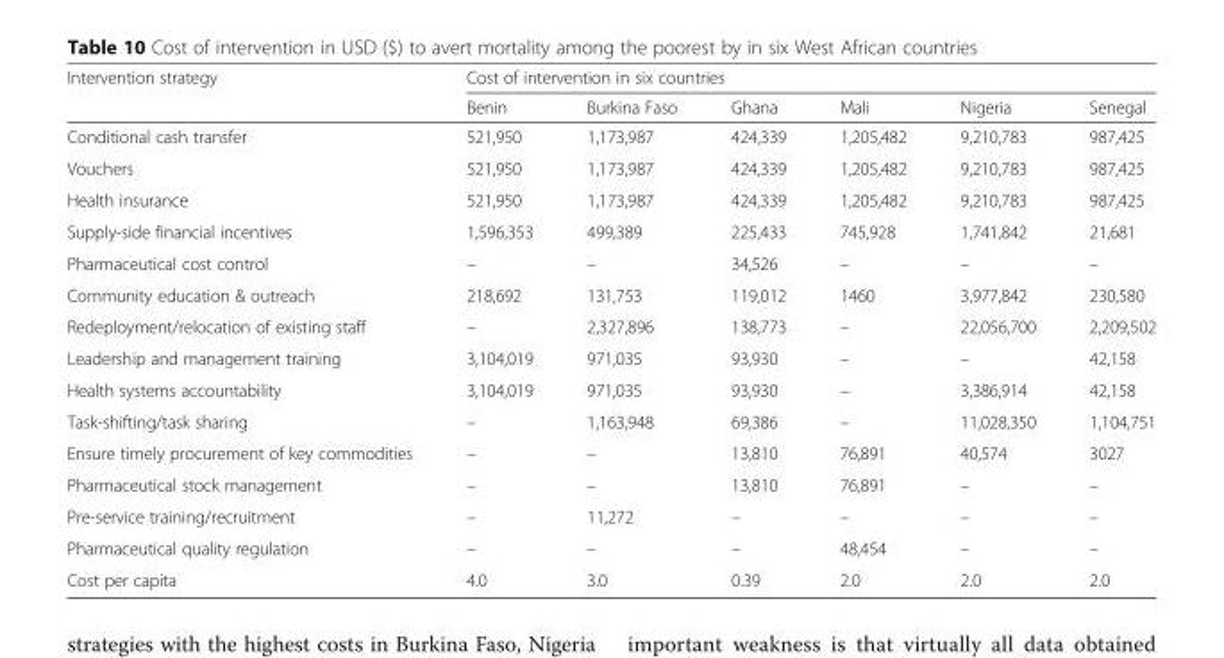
<table><thead><tr><td rowspan="2">Intervention strategy</td><td colspan="6">Cost of intervention in six countries</td></tr><tr><td>Benin</td><td>Burkina Faso</td><td>Ghana</td><td>Mali</td><td>Nigeria</td><td>Senegal</td></tr></thead><tbody><tr><td>Conditional cash transfer</td><td>521,950</td><td>1,173,987</td><td>424,339</td><td>1,205,482</td><td>9,210,783</td><td>987,425</td></tr><tr><td>Vouchers</td><td>521,950</td><td>1,173,987</td><td>424,339</td><td>1,205,482</td><td>9,210,783</td><td>987,425</td></tr><tr><td>Health insurance</td><td>521,950</td><td>1,173,987</td><td>424,339</td><td>1,205,482</td><td>9,210,783</td><td>987,425</td></tr><tr><td>Supply-side financial incentives</td><td>1,596,353</td><td>499,389</td><td>225,433</td><td>745,928</td><td>1,741,842</td><td>21,681</td></tr><tr><td>Pharmaceutical cost control</td><td>–</td><td>–</td><td>34,526</td><td>–</td><td>–</td><td>–</td></tr><tr><td>Community education &amp; outreach</td><td>218,692</td><td>131,753</td><td>119,012</td><td>1460</td><td>3,977,842</td><td>230,580</td></tr><tr><td>Redeployment/relocation of existing staff</td><td>–</td><td>2,327,896</td><td>138,773</td><td>–</td><td>22,056,700</td><td>2,209,502</td></tr><tr><td>Leadership and management training</td><td>3,104,019</td><td>971,035</td><td>93,930</td><td>–</td><td>–</td><td>42,158</td></tr><tr><td>Health systems accountability</td><td>3,104,019</td><td>971,035</td><td>93,930</td><td>–</td><td>3,386,914</td><td>42,158</td></tr><tr><td>Task-shifting/task sharing</td><td>–</td><td>1,163,948</td><td>69,386</td><td>–</td><td>11,028,350</td><td>1,104,751</td></tr><tr><td>Ensure timely procurement of key commodities</td><td>–</td><td>–</td><td>13,810</td><td>76,891</td><td>40,574</td><td>3027</td></tr><tr><td>Pharmaceutical stock management</td><td>–</td><td>–</td><td>13,810</td><td>76,891</td><td>–</td><td>–</td></tr><tr><td>Pre-service training/recruitment</td><td>–</td><td>11,272</td><td>–</td><td>–</td><td>–</td><td>–</td></tr><tr><td>Pharmaceutical quality regulation</td><td>–</td><td>–</td><td>–</td><td>48,454</td><td>–</td><td>–</td></tr><tr><td>Cost per capita</td><td>4.0</td><td>3.0</td><td>0.39</td><td>2.0</td><td>2.0</td><td>2.0</td></tr></tbody></table>